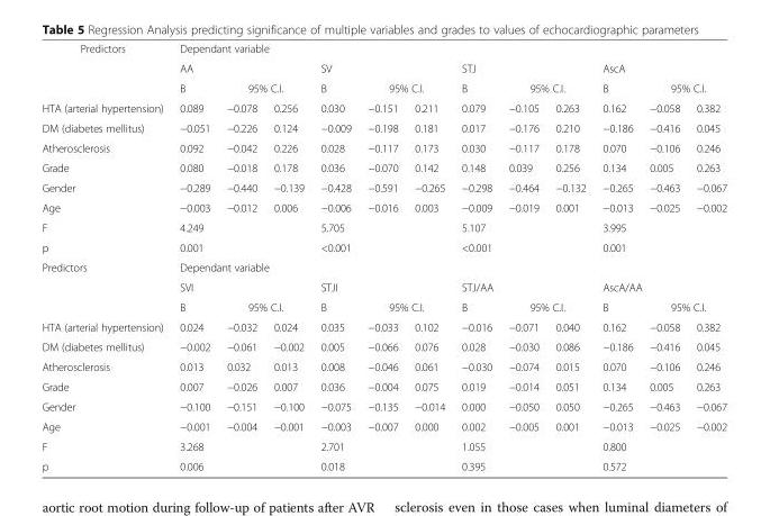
<table><tbody><tr><td rowspan="3">Predictors</td><td colspan="12">Dependant variable</td></tr><tr><td colspan="3">AA</td><td colspan="3">SV</td><td colspan="3">STJ</td><td colspan="3">AscA</td></tr><tr><td>B</td><td colspan="2">95% C.I.</td><td>B</td><td colspan="2">95% C.I.</td><td>B</td><td colspan="2">95% C.I.</td><td>B</td><td colspan="2">95% C.I.</td></tr><tr><td>HTA (arterial hypertension)</td><td>0.089</td><td>−0.078</td><td>0.256</td><td>0.030</td><td>−0.151</td><td>0.211</td><td>0.079</td><td>−0.105</td><td>0.263</td><td>0.162</td><td>−0.058</td><td>0.382</td></tr><tr><td>DM (diabetes mellitus)</td><td>−0.051</td><td>−0.226</td><td>0.124</td><td>−0.009</td><td>−0.198</td><td>0.181</td><td>0.017</td><td>−0.176</td><td>0.210</td><td>−0.186</td><td>−0.416</td><td>0.045</td></tr><tr><td>Atherosclerosis</td><td>0.092</td><td>−0.042</td><td>0.226</td><td>0.028</td><td>−0.117</td><td>0.173</td><td>0.030</td><td>−0.117</td><td>0.178</td><td>0.070</td><td>−0.106</td><td>0.246</td></tr><tr><td>Grade</td><td>0.080</td><td>−0.018</td><td>0.178</td><td>0.036</td><td>−0.070</td><td>0.142</td><td>0.148</td><td>0.039</td><td>0.256</td><td>0.134</td><td>0.005</td><td>0.263</td></tr><tr><td>Gender</td><td>−0.289</td><td>−0.440</td><td>−0.139</td><td>−0.428</td><td>−0.591</td><td>−0.265</td><td>−0.298</td><td>−0.464</td><td>−0.132</td><td>−0.265</td><td>−0.463</td><td>−0.067</td></tr><tr><td>Age</td><td>−0.003</td><td>−0.012</td><td>0.006</td><td>−0.006</td><td>−0.016</td><td>0.003</td><td>−0.009</td><td>−0.019</td><td>0.001</td><td>−0.013</td><td>−0.025</td><td>−0.002</td></tr><tr><td>F</td><td colspan="3">4.249</td><td colspan="3">5.705</td><td colspan="3">5.107</td><td colspan="3">3.995</td></tr><tr><td>p</td><td colspan="3">0.001</td><td colspan="3">&lt;0.001</td><td colspan="3">&lt;0.001</td><td colspan="3">0.001</td></tr><tr><td rowspan="3">Predictors</td><td colspan="12">Dependant variable</td></tr><tr><td colspan="3">SVI</td><td colspan="3">STJI</td><td colspan="3">STJ/AA</td><td colspan="3">AscA/AA</td></tr><tr><td>B</td><td colspan="2">95% C.I.</td><td>B</td><td colspan="2">95% C.I.</td><td>B</td><td colspan="2">95% C.I.</td><td>B</td><td colspan="2">95% C.I.</td></tr><tr><td>HTA (arterial hypertension)</td><td>0.024</td><td>−0.032</td><td>0.024</td><td>0.035</td><td>−0.033</td><td>0.102</td><td>−0.016</td><td>−0.071</td><td>0.040</td><td>0.162</td><td>−0.058</td><td>0.382</td></tr><tr><td>DM (diabetes mellitus)</td><td>−0.002</td><td>−0.061</td><td>−0.002</td><td>0.005</td><td>−0.066</td><td>0.076</td><td>0.028</td><td>−0.030</td><td>0.086</td><td>−0.186</td><td>−0.416</td><td>0.045</td></tr><tr><td>Atherosclerosis</td><td>0.013</td><td>0.032</td><td>0.013</td><td>0.008</td><td>−0.046</td><td>0.061</td><td>−0.030</td><td>−0.074</td><td>0.015</td><td>0.070</td><td>−0.106</td><td>0.246</td></tr><tr><td>Grade</td><td>0.007</td><td>−0.026</td><td>0.007</td><td>0.036</td><td>−0.004</td><td>0.075</td><td>0.019</td><td>−0.014</td><td>0.051</td><td>0.134</td><td>0.005</td><td>0.263</td></tr><tr><td>Gender</td><td>−0.100</td><td>−0.151</td><td>−0.100</td><td>−0.075</td><td>−0.135</td><td>−0.014</td><td>0.000</td><td>−0.050</td><td>0.050</td><td>−0.265</td><td>−0.463</td><td>−0.067</td></tr><tr><td>Age</td><td>−0.001</td><td>−0.004</td><td>−0.001</td><td>−0.003</td><td>−0.007</td><td>0.000</td><td>0.002</td><td>−0.005</td><td>0.001</td><td>−0.013</td><td>−0.025</td><td>−0.002</td></tr><tr><td>F</td><td colspan="3">3.268</td><td colspan="3">2.701</td><td colspan="3">1.055</td><td colspan="3">0.800</td></tr><tr><td>p</td><td colspan="3">0.006</td><td colspan="3">0.018</td><td colspan="3">0.395</td><td colspan="3">0.572</td></tr></tbody></table>